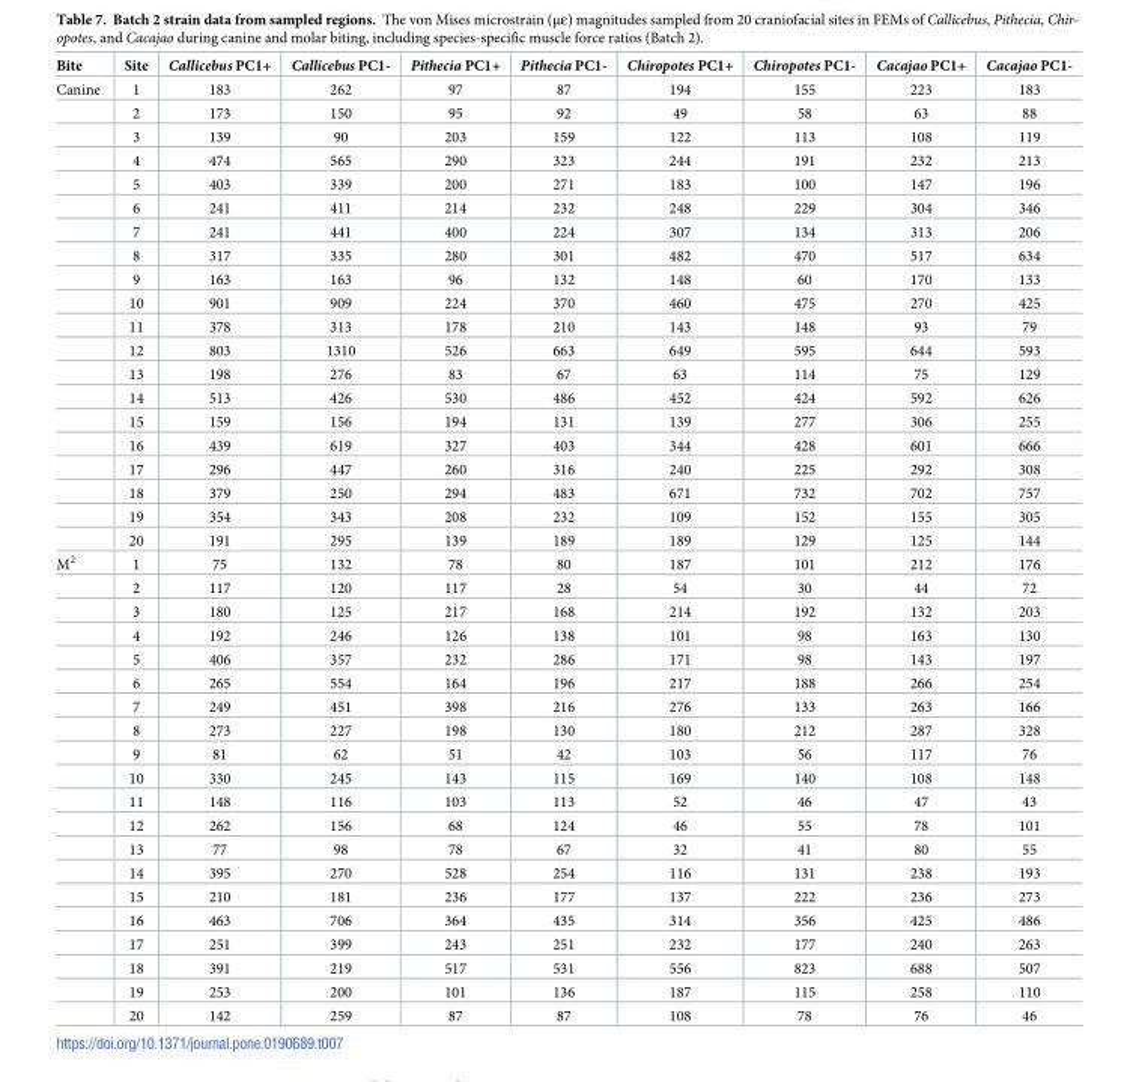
<table><thead><tr><td>Bite</td><td>Site</td><td>Callicebus PC1+</td><td>Callicebus PC1-</td><td>Pithecia PC1+</td><td>Pithecia PC1-</td><td>Chiropotes PC1+</td><td>Chiropotes PC1-</td><td>Cacajao PC1+</td><td>Cacajao PC1-</td></tr></thead><tbody><tr><td rowspan="20">Canine</td><td>1</td><td>183</td><td>262</td><td>97</td><td>87</td><td>194</td><td>155</td><td>223</td><td>183</td></tr><tr><td>2</td><td>173</td><td>150</td><td>95</td><td>92</td><td>49</td><td>58</td><td>63</td><td>88</td></tr><tr><td>3</td><td>139</td><td>90</td><td>203</td><td>159</td><td>122</td><td>113</td><td>108</td><td>119</td></tr><tr><td>4</td><td>474</td><td>565</td><td>290</td><td>323</td><td>244</td><td>191</td><td>232</td><td>213</td></tr><tr><td>5</td><td>403</td><td>339</td><td>200</td><td>271</td><td>183</td><td>100</td><td>147</td><td>196</td></tr><tr><td>6</td><td>241</td><td>411</td><td>214</td><td>232</td><td>248</td><td>229</td><td>304</td><td>346</td></tr><tr><td>7</td><td>241</td><td>441</td><td>400</td><td>224</td><td>307</td><td>134</td><td>313</td><td>206</td></tr><tr><td>8</td><td>317</td><td>335</td><td>280</td><td>301</td><td>482</td><td>470</td><td>517</td><td>634</td></tr><tr><td>9</td><td>163</td><td>163</td><td>96</td><td>132</td><td>148</td><td>60</td><td>170</td><td>133</td></tr><tr><td>10</td><td>901</td><td>909</td><td>224</td><td>370</td><td>460</td><td>475</td><td>270</td><td>425</td></tr><tr><td>11</td><td>378</td><td>313</td><td>178</td><td>210</td><td>143</td><td>148</td><td>93</td><td>79</td></tr><tr><td>12</td><td>803</td><td>1310</td><td>526</td><td>663</td><td>649</td><td>595</td><td>644</td><td>593</td></tr><tr><td>13</td><td>198</td><td>276</td><td>83</td><td>67</td><td>63</td><td>114</td><td>75</td><td>129</td></tr><tr><td>14</td><td>513</td><td>426</td><td>530</td><td>486</td><td>452</td><td>424</td><td>592</td><td>626</td></tr><tr><td>15</td><td>159</td><td>156</td><td>194</td><td>131</td><td>139</td><td>277</td><td>306</td><td>255</td></tr><tr><td>16</td><td>439</td><td>619</td><td>327</td><td>403</td><td>344</td><td>428</td><td>601</td><td>666</td></tr><tr><td>17</td><td>296</td><td>447</td><td>260</td><td>316</td><td>240</td><td>225</td><td>292</td><td>308</td></tr><tr><td>18</td><td>379</td><td>250</td><td>294</td><td>483</td><td>671</td><td>732</td><td>702</td><td>757</td></tr><tr><td>19</td><td>354</td><td>343</td><td>208</td><td>232</td><td>109</td><td>152</td><td>155</td><td>305</td></tr><tr><td>20</td><td>191</td><td>295</td><td>139</td><td>189</td><td>189</td><td>129</td><td>125</td><td>144</td></tr><tr><td rowspan="20">M<sup>2</sup></td><td>1</td><td>75</td><td>132</td><td>78</td><td>80</td><td>187</td><td>101</td><td>212</td><td>176</td></tr><tr><td>2</td><td>117</td><td>120</td><td>117</td><td>28</td><td>54</td><td>30</td><td>44</td><td>72</td></tr><tr><td>3</td><td>180</td><td>125</td><td>217</td><td>168</td><td>214</td><td>192</td><td>132</td><td>203</td></tr><tr><td>4</td><td>192</td><td>246</td><td>126</td><td>138</td><td>101</td><td>98</td><td>163</td><td>130</td></tr><tr><td>5</td><td>406</td><td>357</td><td>232</td><td>286</td><td>171</td><td>98</td><td>143</td><td>197</td></tr><tr><td>6</td><td>265</td><td>554</td><td>164</td><td>196</td><td>217</td><td>188</td><td>266</td><td>254</td></tr><tr><td>7</td><td>249</td><td>451</td><td>398</td><td>216</td><td>276</td><td>133</td><td>263</td><td>166</td></tr><tr><td>8</td><td>273</td><td>227</td><td>198</td><td>130</td><td>180</td><td>212</td><td>287</td><td>328</td></tr><tr><td>9</td><td>81</td><td>62</td><td>51</td><td>42</td><td>103</td><td>56</td><td>117</td><td>76</td></tr><tr><td>10</td><td>330</td><td>245</td><td>143</td><td>115</td><td>169</td><td>140</td><td>108</td><td>148</td></tr><tr><td>11</td><td>148</td><td>116</td><td>103</td><td>113</td><td>52</td><td>46</td><td>47</td><td>43</td></tr><tr><td>12</td><td>262</td><td>156</td><td>68</td><td>124</td><td>46</td><td>55</td><td>78</td><td>101</td></tr><tr><td>13</td><td>77</td><td>98</td><td>78</td><td>67</td><td>32</td><td>41</td><td>80</td><td>55</td></tr><tr><td>14</td><td>395</td><td>270</td><td>528</td><td>254</td><td>116</td><td>131</td><td>238</td><td>193</td></tr><tr><td>15</td><td>210</td><td>181</td><td>236</td><td>177</td><td>137</td><td>222</td><td>236</td><td>273</td></tr><tr><td>16</td><td>463</td><td>706</td><td>364</td><td>435</td><td>314</td><td>356</td><td>425</td><td>486</td></tr><tr><td>17</td><td>251</td><td>399</td><td>243</td><td>251</td><td>232</td><td>177</td><td>240</td><td>263</td></tr><tr><td>18</td><td>391</td><td>219</td><td>517</td><td>531</td><td>556</td><td>823</td><td>688</td><td>507</td></tr><tr><td>19</td><td>253</td><td>200</td><td>101</td><td>136</td><td>187</td><td>115</td><td>258</td><td>110</td></tr><tr><td>20</td><td>142</td><td>259</td><td>87</td><td>87</td><td>108</td><td>78</td><td>76</td><td>46</td></tr></tbody></table>